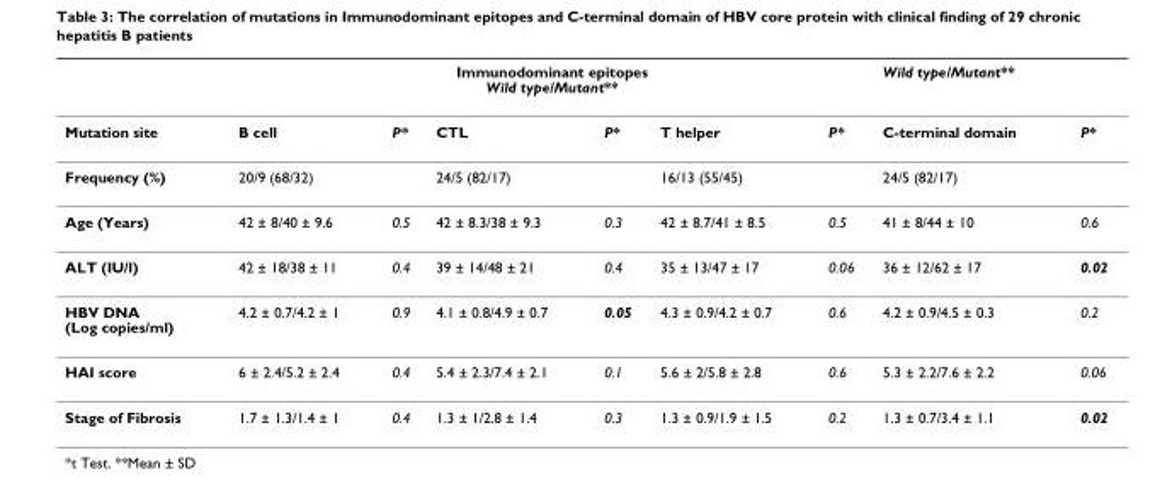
<table><thead><tr><td rowspan="2">Mutation site</td><td colspan="6">Immunodominant epitopes Wild type/Mutant**</td><td colspan="2">Wild type/Mutant**</td></tr><tr><td>B cell</td><td>P*</td><td>CTL</td><td>P*</td><td>T helper</td><td>P*</td><td>C-terminal domain</td><td>P*</td></tr></thead><tbody><tr><td>Frequency (%)</td><td>20/9 (68/32)</td><td></td><td>24/5 (82/17)</td><td></td><td>16/13 (55/45)</td><td></td><td>24/5 (82/17)</td><td></td></tr><tr><td>Age (Years)</td><td>42 ± 8/40 ± 9.6</td><td>0.5</td><td>42 ± 8.3/38 ± 9.3</td><td>0.3</td><td>42 ± 8.7/41 ± 8.5</td><td>0.5</td><td>41 ± 8/44 ± 10</td><td>0.6</td></tr><tr><td>ALT (IU/l)</td><td>42 ± 18/38 ± 11</td><td>0.4</td><td>39 ± 14/48 ± 21</td><td>0.4</td><td>35 ± 13/47 ± 17</td><td>0.06</td><td>36 ± 12/62 ± 17</td><td>0.02</td></tr><tr><td>HBV DNA (Log copies/ml)</td><td>4.2 ± 0.7/4.2 ± 1</td><td>0.9</td><td>4.1 ± 0.8/4.9 ± 0.7</td><td>0.05</td><td>4.3 ± 0.9/4.2 ± 0.7</td><td>0.6</td><td>4.2 ± 0.9/4.5 ± 0.3</td><td>0.2</td></tr><tr><td>HAI score</td><td>6 ± 2.4/5.2 ± 2.4</td><td>0.4</td><td>5.4 ± 2.3/7.4 ± 2.1</td><td>0.1</td><td>5.6 ± 2/5.8 ± 2.8</td><td>0.6</td><td>5.3 ± 2.2/7.6 ± 2.2</td><td>0.06</td></tr><tr><td>Stage of Fibrosis</td><td>1.7 ± 1.3/1.4 ± 1</td><td>0.4</td><td>1.3 ± 1/2.8 ± 1.4</td><td>0.3</td><td>1.3 ± 0.9/1.9 ± 1.5</td><td>0.2</td><td>1.3 ± 0.7/3.4 ± 1.1</td><td>0.02</td></tr></tbody></table>